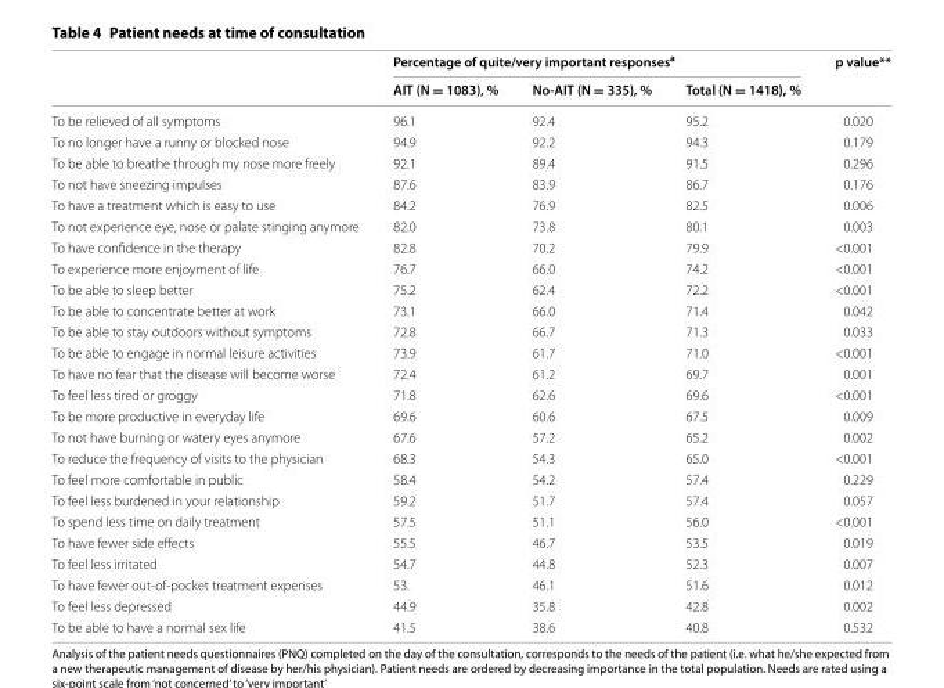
<table><thead><tr><td rowspan="2"></td><td colspan="3">Percentage of quite/very important responses<sup>a</sup></td><td rowspan="2">p value**</td></tr><tr><td>AIT (N = 1083), %</td><td>No-AIT (N = 335), %</td><td>Total (N = 1418), %</td></tr></thead><tbody><tr><td>To be relieved of all symptoms</td><td>96.1</td><td>92.4</td><td>95.2</td><td>0.020</td></tr><tr><td>To no longer have a runny or blocked nose</td><td>94.9</td><td>92.2</td><td>94.3</td><td>0.179</td></tr><tr><td>To be able to breathe through my nose more freely</td><td>92.1</td><td>89.4</td><td>91.5</td><td>0.296</td></tr><tr><td>To not have sneezing impulses</td><td>87.6</td><td>83.9</td><td>86.7</td><td>0.176</td></tr><tr><td>To have a treatment which is easy to use</td><td>84.2</td><td>76.9</td><td>82.5</td><td>0.006</td></tr><tr><td>To not experience eye, nose or palate stinging anymore</td><td>82.0</td><td>73.8</td><td>80.1</td><td>0.003</td></tr><tr><td>To have confidence in the therapy</td><td>82.8</td><td>70.2</td><td>79.9</td><td>&lt;0.001</td></tr><tr><td>To experience more enjoyment of life</td><td>76.7</td><td>66.0</td><td>74.2</td><td>&lt;0.001</td></tr><tr><td>To be able to sleep better</td><td>75.2</td><td>62.4</td><td>72.2</td><td>&lt;0.001</td></tr><tr><td>To be able to concentrate better at work</td><td>73.1</td><td>66.0</td><td>71.4</td><td>0.042</td></tr><tr><td>To be able to stay outdoors without symptoms</td><td>72.8</td><td>66.7</td><td>71.3</td><td>0.033</td></tr><tr><td>To be able to engage in normal leisure activities</td><td>73.9</td><td>61.7</td><td>71.0</td><td>&lt;0.001</td></tr><tr><td>To have no fear that the disease will become worse</td><td>72.4</td><td>61.2</td><td>69.7</td><td>0.001</td></tr><tr><td>To feel less tired or groggy</td><td>71.8</td><td>62.6</td><td>69.6</td><td>&lt;0.001</td></tr><tr><td>To be more productive in everyday life</td><td>69.6</td><td>60.6</td><td>67.5</td><td>0.009</td></tr><tr><td>To not have burning or watery eyes anymore</td><td>67.6</td><td>57.2</td><td>65.2</td><td>0.002</td></tr><tr><td>To reduce the frequency of visits to the physician</td><td>68.3</td><td>54.3</td><td>65.0</td><td>&lt;0.001</td></tr><tr><td>To feel more comfortable in public</td><td>58.4</td><td>54.2</td><td>57.4</td><td>0.229</td></tr><tr><td>To feel less burdened in your relationship</td><td>59.2</td><td>51.7</td><td>57.4</td><td>0.057</td></tr><tr><td>To spend less time on daily treatment</td><td>57.5</td><td>51.1</td><td>56.0</td><td>&lt;0.001</td></tr><tr><td>To have fewer side effects</td><td>55.5</td><td>46.7</td><td>53.5</td><td>0.019</td></tr><tr><td>To feel less irritated</td><td>54.7</td><td>44.8</td><td>52.3</td><td>0.007</td></tr><tr><td>To have fewer out‑of‑pocket treatment expenses</td><td>53.</td><td>46.1</td><td>51.6</td><td>0.012</td></tr><tr><td>To feel less depressed</td><td>44.9</td><td>35.8</td><td>42.8</td><td>0.002</td></tr><tr><td>To be able to have a normal sex life</td><td>41.5</td><td>38.6</td><td>40.8</td><td>0.532</td></tr></tbody></table>